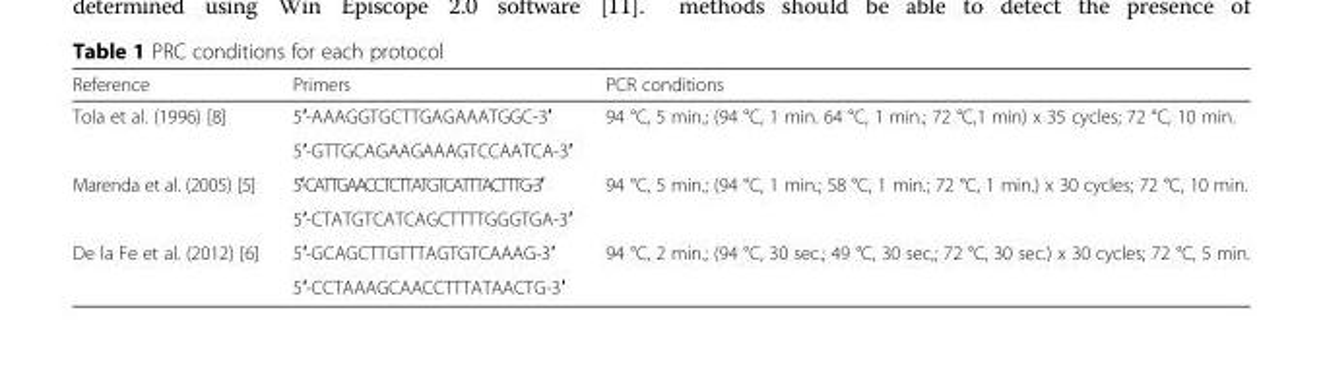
<table><thead><tr><td>Reference</td><td>Primers</td><td>PCR conditions</td></tr></thead><tbody><tr><td rowspan="2">Tola et al. (1996) [8]</td><td>5′-AAAGGTGCTTGAGAAATGGC-3′</td><td rowspan="2">94 °C, 5 min.; (94 °C, 1 min. 64 °C, 1 min.; 72 °C,1 min) x 35 cycles; 72 °C, 10 min.</td></tr><tr><td>5′-GTTGCAGAAGAAAGTCCAATCA-3′</td></tr><tr><td rowspan="2">Marenda et al. (2005) [5]</td><td>5′-CATTGAACCTCTTATGTCATTTACTTTG-3′</td><td rowspan="2">94 °C, 5 min.; (94 °C, 1 min.; 58 °C, 1 min.; 72 °C, 1 min.) x 30 cycles; 72 °C, 10 min.</td></tr><tr><td>5′-CTATGTCATCAGCTTTTGGGTGA-3′</td></tr><tr><td rowspan="2">De la Fe et al. (2012) [6]</td><td>5′-GCAGCTTGTTTAGTGTCAAAG-3′</td><td rowspan="2">94 °C, 2 min.; (94 °C, 30 sec.; 49 °C, 30 sec,; 72 °C, 30 sec.) x 30 cycles; 72 °C, 5 min.</td></tr><tr><td>5′-CCTAAAGCAACCTTTATAACTG-3′</td></tr></tbody></table>